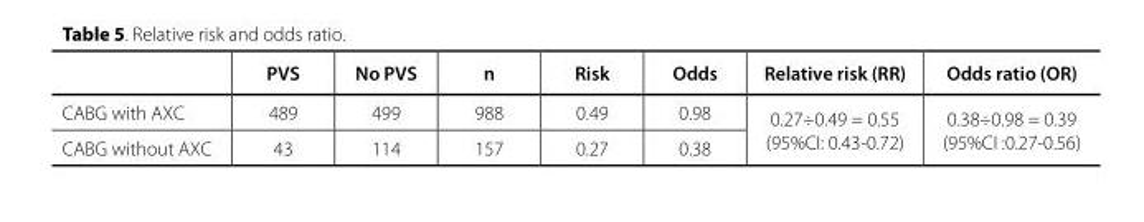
<table><thead><tr><td></td><td>PVS</td><td>No PVS</td><td>n</td><td>Risk</td><td>Odds</td><td>Relative risk (RR)</td><td>Odds ratio (OR)</td></tr></thead><tbody><tr><td>CABG with AXC</td><td>489</td><td>499</td><td>988</td><td>0.49</td><td>0.98</td><td rowspan="2">0.27÷0.49 = 0.55 (95%CI: 0.43-0.72)</td><td rowspan="2">0.38÷0.98 = 0.39 (95%CI :0.27-0.56)</td></tr><tr><td>CABG without AXC</td><td>43</td><td>114</td><td>157</td><td>0.27</td><td>0.38</td></tr></tbody></table>